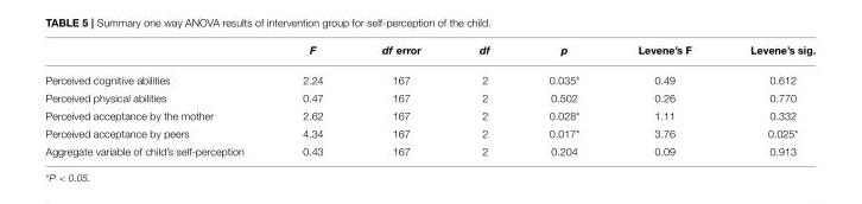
<table><thead><tr><td></td><td>F</td><td>df error</td><td>df</td><td>p</td><td>Levene’s F</td><td>Levene’s sig.</td></tr></thead><tbody><tr><td>Perceived cognitive abilities</td><td>2.24</td><td>167</td><td>2</td><td>0.035*</td><td>0.49</td><td>0.612</td></tr><tr><td>Perceived physical abilities</td><td>0.47</td><td>167</td><td>2</td><td>0.502</td><td>0.26</td><td>0.770</td></tr><tr><td>Perceived acceptance by the mother</td><td>2.62</td><td>167</td><td>2</td><td>0.028*</td><td>1.11</td><td>0.332</td></tr><tr><td>Perceived acceptance by peers</td><td>4.34</td><td>167</td><td>2</td><td>0.017*</td><td>3.76</td><td>0.025*</td></tr><tr><td>Aggregate variable of child’s self-perception</td><td>0.43</td><td>167</td><td>2</td><td>0.204</td><td>0.09</td><td>0.913</td></tr></tbody></table>